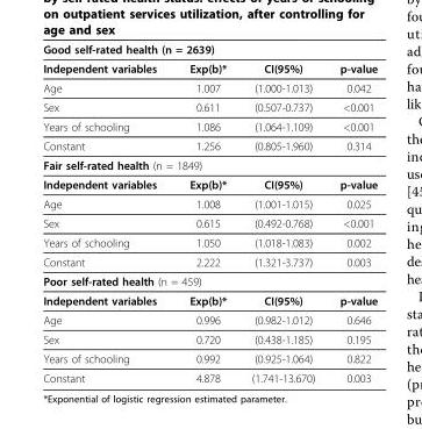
<table><thead><tr><td colspan="4">Good self-rated health (n = 2639)</td></tr><tr><td>Independent variables</td><td>Exp(b)*</td><td>CI(95%)</td><td>p-value</td></tr></thead><tbody><tr><td>Age</td><td>1.007</td><td>(1.000-1.013)</td><td>0.042</td></tr><tr><td>Sex</td><td>0.611</td><td>(0.507-0.737)</td><td>&lt;0.001</td></tr><tr><td>Years of schooling</td><td>1.086</td><td>(1.064-1.109)</td><td>&lt;0.001</td></tr><tr><td>Constant</td><td>1.256</td><td>(0.805-1.960)</td><td>0.314</td></tr><tr><td colspan="4">Fair self-rated health (n = 1849)</td></tr><tr><td>Independent variables</td><td>Exp(b)*</td><td>CI(95%)</td><td>p-value</td></tr><tr><td>Age</td><td>1.008</td><td>(1.001-1.015)</td><td>0.025</td></tr><tr><td>Sex</td><td>0.615</td><td>(0.492-0.768)</td><td>&lt;0.001</td></tr><tr><td>Years of schooling</td><td>1.050</td><td>(1.018-1.083)</td><td>0.002</td></tr><tr><td>Constant</td><td>2.222</td><td>(1.321-3.737)</td><td>0.003</td></tr><tr><td colspan="4">Poor self-rated health (n = 459)</td></tr><tr><td>Independent variables</td><td>Exp(b)*</td><td>CI(95%)</td><td>p-value</td></tr><tr><td>Age</td><td>0.996</td><td>(0.982-1.012)</td><td>0.646</td></tr><tr><td>Sex</td><td>0.720</td><td>(0.438-1.185)</td><td>0.195</td></tr><tr><td>Years of schooling</td><td>0.992</td><td>(0.925-1.064)</td><td>0.822</td></tr><tr><td>Constant</td><td>4.878</td><td>(1.741-13.670)</td><td>0.003</td></tr></tbody></table>